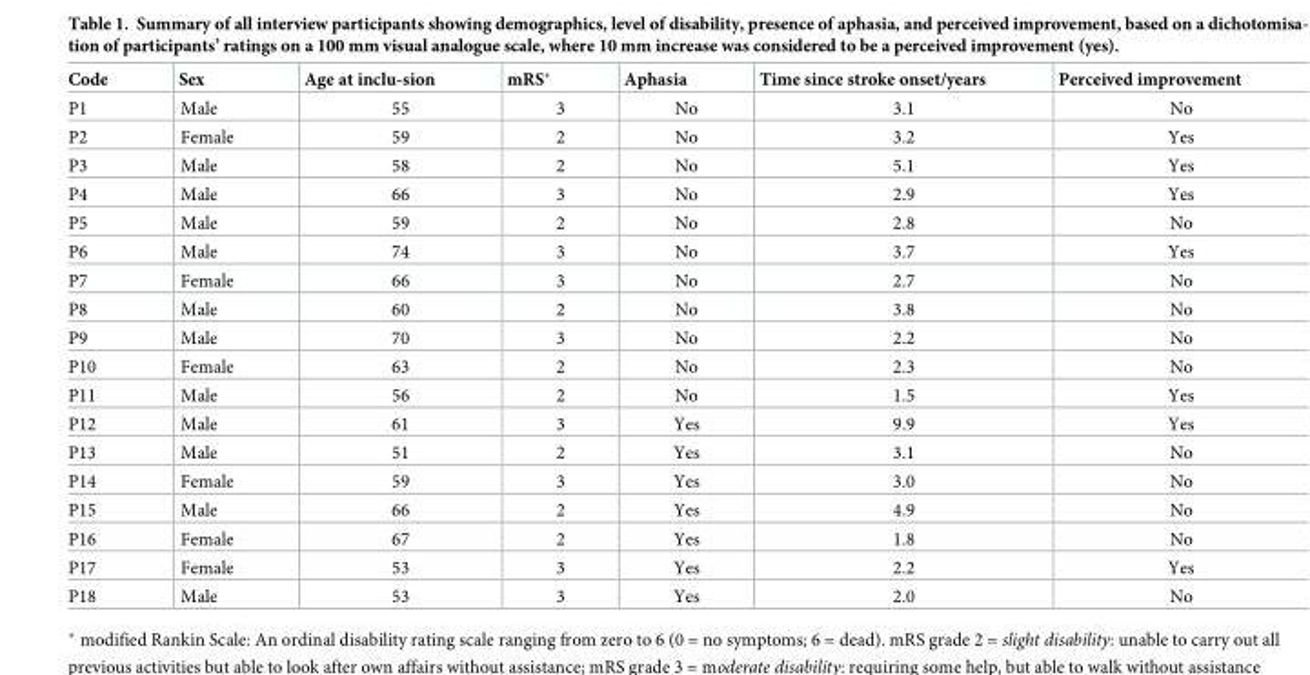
<table><thead><tr><td>Code</td><td>Sex</td><td>Age at inclu-sion</td><td>mRS*</td><td>Aphasia</td><td>Time since stroke onset/years</td><td>Perceived improvement</td></tr></thead><tbody><tr><td>P1</td><td>Male</td><td>55</td><td>3</td><td>No</td><td>3.1</td><td>No</td></tr><tr><td>P2</td><td>Female</td><td>59</td><td>2</td><td>No</td><td>3.2</td><td>Yes</td></tr><tr><td>P3</td><td>Male</td><td>58</td><td>2</td><td>No</td><td>5.1</td><td>Yes</td></tr><tr><td>P4</td><td>Male</td><td>66</td><td>3</td><td>No</td><td>2.9</td><td>Yes</td></tr><tr><td>P5</td><td>Male</td><td>59</td><td>2</td><td>No</td><td>2.8</td><td>No</td></tr><tr><td>P6</td><td>Male</td><td>74</td><td>3</td><td>No</td><td>3.7</td><td>Yes</td></tr><tr><td>P7</td><td>Female</td><td>66</td><td>3</td><td>No</td><td>2.7</td><td>No</td></tr><tr><td>P8</td><td>Male</td><td>60</td><td>2</td><td>No</td><td>3.8</td><td>No</td></tr><tr><td>P9</td><td>Male</td><td>70</td><td>3</td><td>No</td><td>2.2</td><td>No</td></tr><tr><td>P10</td><td>Female</td><td>63</td><td>2</td><td>No</td><td>2.3</td><td>No</td></tr><tr><td>P11</td><td>Male</td><td>56</td><td>2</td><td>No</td><td>1.5</td><td>Yes</td></tr><tr><td>P12</td><td>Male</td><td>61</td><td>3</td><td>Yes</td><td>9.9</td><td>Yes</td></tr><tr><td>P13</td><td>Male</td><td>51</td><td>2</td><td>Yes</td><td>3.1</td><td>No</td></tr><tr><td>P14</td><td>Female</td><td>59</td><td>3</td><td>Yes</td><td>3.0</td><td>No</td></tr><tr><td>P15</td><td>Male</td><td>66</td><td>2</td><td>Yes</td><td>4.9</td><td>No</td></tr><tr><td>P16</td><td>Female</td><td>67</td><td>2</td><td>Yes</td><td>1.8</td><td>No</td></tr><tr><td>P17</td><td>Female</td><td>53</td><td>3</td><td>Yes</td><td>2.2</td><td>Yes</td></tr><tr><td>P18</td><td>Male</td><td>53</td><td>3</td><td>Yes</td><td>2.0</td><td>No</td></tr></tbody></table>